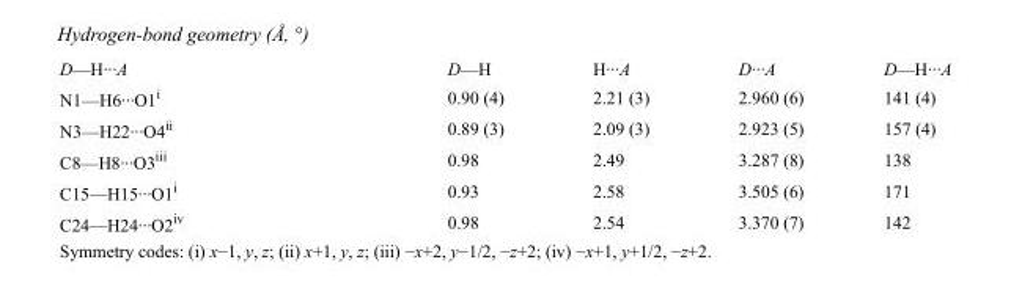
<table><tbody><tr><td>D—H···A</td><td>D—H</td><td>H···A</td><td>D···A</td><td>D—H···A</td></tr><tr><td>N1—H6···O1<sup>i</sup></td><td>0.90 (4)</td><td>2.21 (3)</td><td>2.960 (6)</td><td>141 (4)</td></tr><tr><td>N3—H22···O4<sup>ii</sup></td><td>0.89 (3)</td><td>2.09 (3)</td><td>2.923 (5)</td><td>157 (4)</td></tr><tr><td>C8—H8···O3<sup>iii</sup></td><td>0.98</td><td>2.49</td><td>3.287 (8)</td><td>138</td></tr><tr><td>C15—H15···O1<sup>i</sup></td><td>0.93</td><td>2.58</td><td>3.505 (6)</td><td>171</td></tr><tr><td>C24—H24···O2<sup>iv</sup></td><td>0.98</td><td>2.54</td><td>3.370 (7)</td><td>142</td></tr></tbody></table>